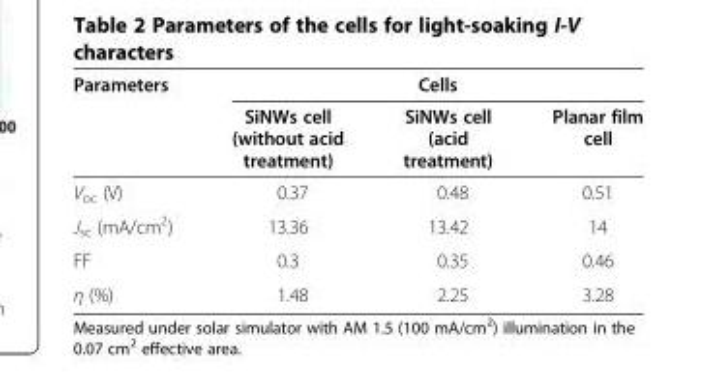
<table><thead><tr><td rowspan="2">Parameters</td><td colspan="3">Cells</td></tr><tr><td>SiNWs cell (without acid treatment)</td><td>SiNWs cell (acid treatment)</td><td>Planar film cell</td></tr></thead><tbody><tr><td>V<sub>oc</sub> (V)</td><td>0.37</td><td>0.48</td><td>0.51</td></tr><tr><td>J<sub>sc</sub> (mA/cm<sup>2</sup>)</td><td>13.36</td><td>13.42</td><td>14</td></tr><tr><td>FF</td><td>0.3</td><td>0.35</td><td>0.46</td></tr><tr><td>η (%)</td><td>1.48</td><td>2.25</td><td>3.28</td></tr></tbody></table>